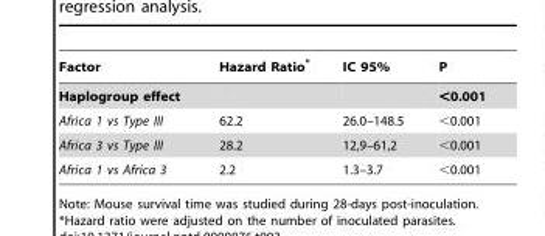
<table><thead><tr><td>Factor</td><td>Hazard Ratio*</td><td>IC 95%</td><td>P</td></tr></thead><tbody><tr><td>Haplogroup effect</td><td></td><td></td><td>&lt;0.001</td></tr><tr><td>Africa 1 vs Type III</td><td>62.2</td><td>26.0–148.5</td><td>&lt;0.001</td></tr><tr><td>Africa 3 vs Type III</td><td>28.2</td><td>12,9–61,2</td><td>&lt;0.001</td></tr><tr><td>Africa 1 vs Africa 3</td><td>2.2</td><td>1.3–3.7</td><td>&lt;0.001</td></tr></tbody></table>